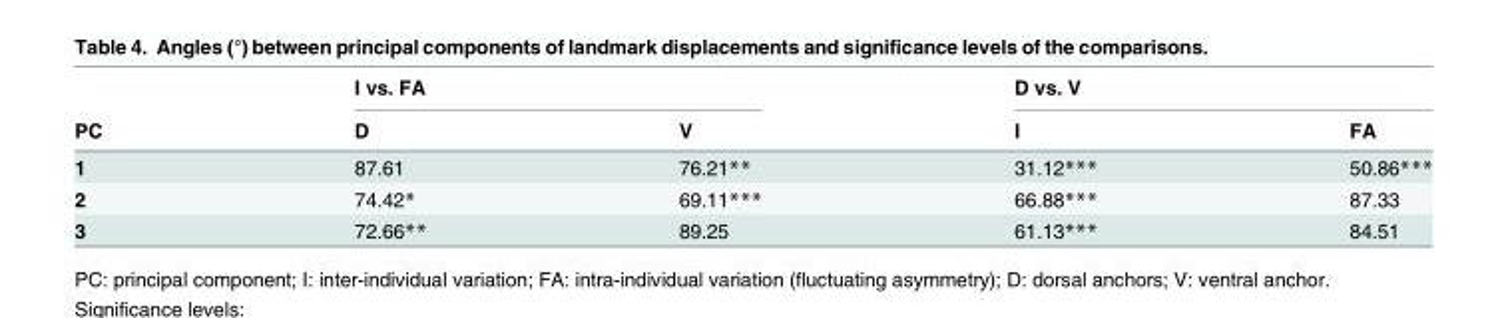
<table><thead><tr><td rowspan="2">PC</td><td colspan="2">I vs. FA</td><td colspan="2">D vs. V</td></tr><tr><td>D</td><td>V</td><td>I</td><td>FA</td></tr></thead><tbody><tr><td>1</td><td>87.61</td><td>76.21**</td><td>31.12***</td><td>50.86***</td></tr><tr><td>2</td><td>74.42*</td><td>69.11***</td><td>66.88***</td><td>87.33</td></tr><tr><td>3</td><td>72.66**</td><td>89.25</td><td>61.13***</td><td>84.51</td></tr></tbody></table>